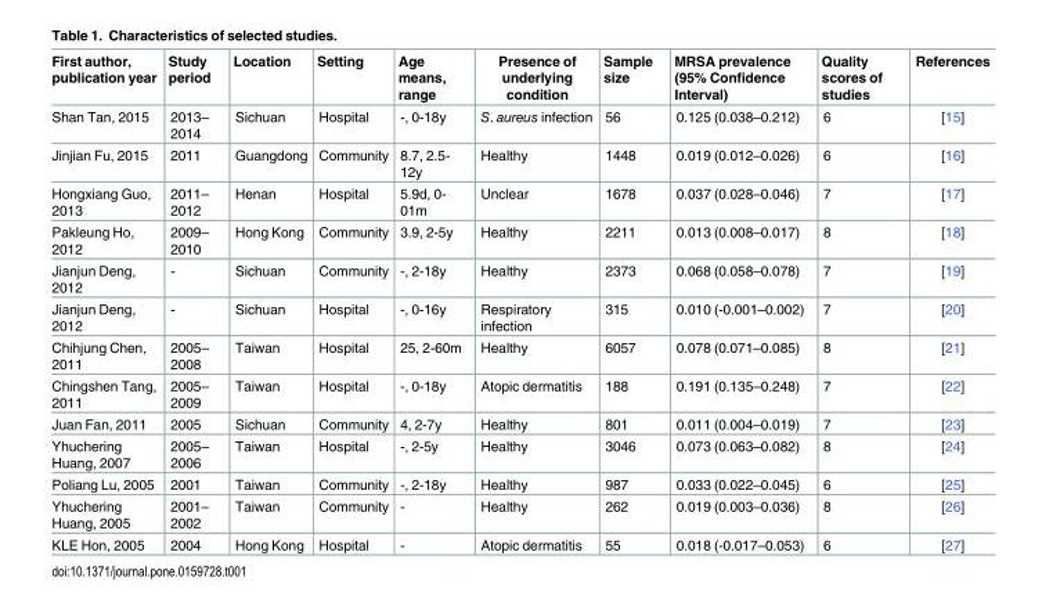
<table><thead><tr><td>First author, publication year</td><td>Study period</td><td>Location</td><td>Setting</td><td>Age means, range</td><td>Presence of underlying condition</td><td>Sample size</td><td>MRSA prevalence (95% Confidence Interval)</td><td>Quality scores of studies</td><td>References</td></tr></thead><tbody><tr><td>Shan Tan, 2015</td><td>2013– 2014</td><td>Sichuan</td><td>Hospital</td><td>-, 0-18y</td><td>S. aureus infection</td><td>56</td><td>0.125 (0.038–0.212)</td><td>6</td><td>[15]</td></tr><tr><td>Jinjian Fu, 2015</td><td>2011</td><td>Guangdong</td><td>Community</td><td>8.7, 2.5- 12y</td><td>Healthy</td><td>1448</td><td>0.019 (0.012–0.026)</td><td>6</td><td>[16]</td></tr><tr><td>Hongxiang Guo, 2013</td><td>2011– 2012</td><td>Henan</td><td>Hospital</td><td>5.9d, 0- 01m</td><td>Unclear</td><td>1678</td><td>0.037 (0.028–0.046)</td><td>7</td><td>[17]</td></tr><tr><td>Pakleung Ho, 2012</td><td>2009– 2010</td><td>Hong Kong</td><td>Community</td><td>3.9, 2-5y</td><td>Healthy</td><td>2211</td><td>0.013 (0.008–0.017)</td><td>8</td><td>[18]</td></tr><tr><td>Jianjun Deng, 2012</td><td>-</td><td>Sichuan</td><td>Community</td><td>-, 2-18y</td><td>Healthy</td><td>2373</td><td>0.068 (0.058–0.078)</td><td>7</td><td>[19]</td></tr><tr><td>Jianjun Deng, 2012</td><td>-</td><td>Sichuan</td><td>Hospital</td><td>-, 0-16y</td><td>Respiratory infection</td><td>315</td><td>0.010 (-0.001–0.002)</td><td>7</td><td>[20]</td></tr><tr><td>Chihjung Chen, 2011</td><td>2005– 2008</td><td>Taiwan</td><td>Hospital</td><td>25, 2-60m</td><td>Healthy</td><td>6057</td><td>0.078 (0.071–0.085)</td><td>8</td><td>[21]</td></tr><tr><td>Chingshen Tang, 2011</td><td>2005– 2009</td><td>Taiwan</td><td>Hospital</td><td>-, 0-18y</td><td>Atopic dermatitis</td><td>188</td><td>0.191 (0.135–0.248)</td><td>7</td><td>[22]</td></tr><tr><td>Juan Fan, 2011</td><td>2005</td><td>Sichuan</td><td>Community</td><td>4, 2-7y</td><td>Healthy</td><td>801</td><td>0.011 (0.004–0.019)</td><td>7</td><td>[23]</td></tr><tr><td>Yhuchering Huang, 2007</td><td>2005– 2006</td><td>Taiwan</td><td>Hospital</td><td>-, 2-5y</td><td>Healthy</td><td>3046</td><td>0.073 (0.063–0.082)</td><td>8</td><td>[24]</td></tr><tr><td>Poliang Lu, 2005</td><td>2001</td><td>Taiwan</td><td>Community</td><td>-, 2-18y</td><td>Healthy</td><td>987</td><td>0.033 (0.022–0.045)</td><td>6</td><td>[25]</td></tr><tr><td>Yhuchering Huang, 2005</td><td>2001– 2002</td><td>Taiwan</td><td>Community</td><td>-</td><td>Healthy</td><td>262</td><td>0.019 (0.003–0.036)</td><td>8</td><td>[26]</td></tr><tr><td>KLE Hon, 2005</td><td>2004</td><td>Hong Kong</td><td>Hospital</td><td>-</td><td>Atopic dermatitis</td><td>55</td><td>0.018 (-0.017–0.053)</td><td>6</td><td>[27]</td></tr></tbody></table>